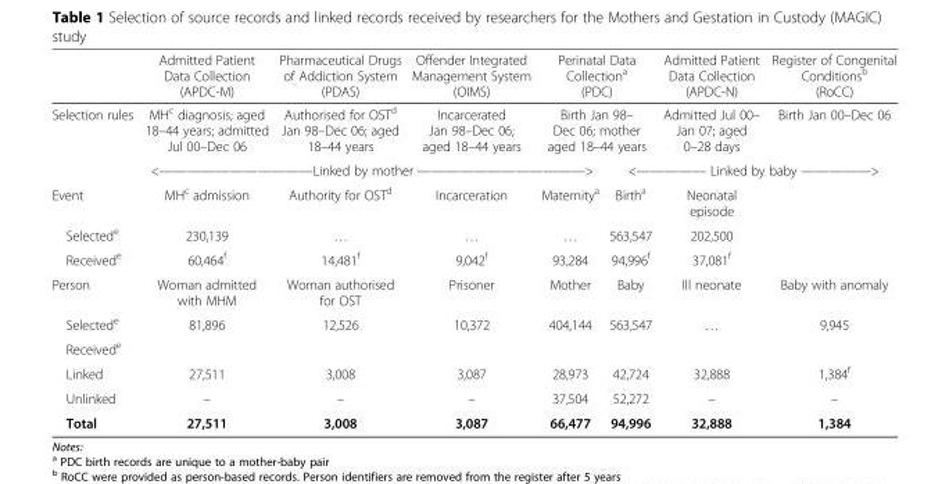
<table><thead><tr><td rowspan="4">Selection rules Event</td><td rowspan="2">Admitted Patient Data Collection (APDC-M) MH<sup>c</sup> diagnosis; aged 18–44 years; admitted Jul 00–Dec 06</td><td rowspan="2">Pharmaceutical Drugs of Addiction System (PDAS) Authorised for OST<sup>d</sup> Jan 98–Dec 06; aged 18–44 years</td><td rowspan="2">Offender Integrated Management System (OIMS) Incarcerated Jan 98–Dec 06; aged 18–44 years</td><td rowspan="2" colspan="2">Perinatal Data Collection<sup>a</sup> (PDC) Birth Jan 98– Dec 06; mother aged 18–44 years</td><td rowspan="2">Admitted Patient Data Collection (APDC-N) Admitted Jul 00– Jan 07; aged 0–28 days</td><td rowspan="2">Register of Congenital Conditions<sup>b</sup> (RoCC) Birth Jan 00–Dec 06</td></tr><tr></tr><tr><td colspan="4">&lt;———————————Linked by mother ————————————&gt;</td><td colspan="3">&lt;————— Linked by baby —————&gt;</td></tr><tr><td>MH<sup>c</sup> admission</td><td>Authority for OST<sup>d</sup></td><td>Incarceration</td><td>Maternity<sup>a</sup></td><td>Birth<sup>a</sup></td><td>Neonatal episode</td><td></td></tr></thead><tbody><tr><td>Selected<sup>e</sup></td><td>230,139</td><td>…</td><td>…</td><td>…</td><td>563,547</td><td>202,500</td><td></td></tr><tr><td>Received<sup>e</sup></td><td>60,464<sup>f</sup></td><td>14,481<sup>f</sup></td><td>9,042<sup>f</sup></td><td>93,284</td><td>94,996<sup>f</sup></td><td>37,081<sup>f</sup></td><td></td></tr><tr><td>Person</td><td>Woman admitted with MHM</td><td>Woman authorised for OST</td><td>Prisoner</td><td>Mother</td><td>Baby</td><td>Ill neonate</td><td>Baby with anomaly</td></tr><tr><td>Selected<sup>e</sup></td><td>81,896</td><td>12,526</td><td>10,372</td><td>404,144</td><td>563,547</td><td>…</td><td>9,945</td></tr><tr><td colspan="8">Received<sup>e</sup></td></tr><tr><td>Linked</td><td>27,511</td><td>3,008</td><td>3,087</td><td>28,973</td><td>42,724</td><td>32,888</td><td>1,384<sup>f</sup></td></tr><tr><td>Unlinked</td><td>–</td><td>–</td><td>–</td><td>37,504</td><td>52,272</td><td>–</td><td>–</td></tr><tr><td>Total</td><td>27,511</td><td>3,008</td><td>3,087</td><td>66,477</td><td>94,996</td><td>32,888</td><td>1,384</td></tr></tbody></table>